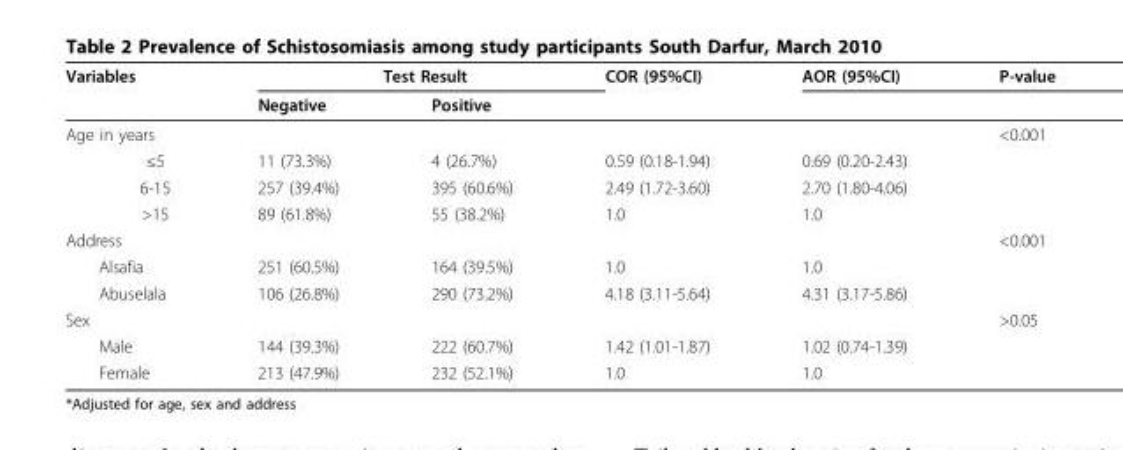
<table><thead><tr><td rowspan="2">Variables</td><td colspan="2">Test Result</td><td rowspan="2">COR (95%CI)</td><td rowspan="2">AOR (95%CI)</td><td rowspan="2">P-value</td></tr><tr><td>Negative</td><td>Positive</td></tr></thead><tbody><tr><td>Age in years</td><td></td><td></td><td></td><td></td><td>&lt;0.001</td></tr><tr><td>≤5</td><td>11 (73.3%)</td><td>4 (26.7%)</td><td>0.59 (0.18-1.94)</td><td>0.69 (0.20-2.43)</td><td></td></tr><tr><td>6-15</td><td>257 (39.4%)</td><td>395 (60.6%)</td><td>2.49 (1.72-3.60)</td><td>2.70 (1.80-4.06)</td><td></td></tr><tr><td>&gt;15</td><td>89 (61.8%)</td><td>55 (38.2%)</td><td>1.0</td><td>1.0</td><td></td></tr><tr><td>Address</td><td></td><td></td><td></td><td></td><td>&lt;0.001</td></tr><tr><td>Alsafia</td><td>251 (60.5%)</td><td>164 (39.5%)</td><td>1.0</td><td>1.0</td><td></td></tr><tr><td>Abuselala</td><td>106 (26.8%)</td><td>290 (73.2%)</td><td>4.18 (3.11-5.64)</td><td>4.31 (3.17-5.86)</td><td></td></tr><tr><td>Sex</td><td></td><td></td><td></td><td></td><td>&gt;0.05</td></tr><tr><td>Male</td><td>144 (39.3%)</td><td>222 (60.7%)</td><td>1.42 (1.01-1.87)</td><td>1.02 (0.74-1.39)</td><td></td></tr><tr><td>Female</td><td>213 (47.9%)</td><td>232 (52.1%)</td><td>1.0</td><td>1.0</td><td></td></tr></tbody></table>